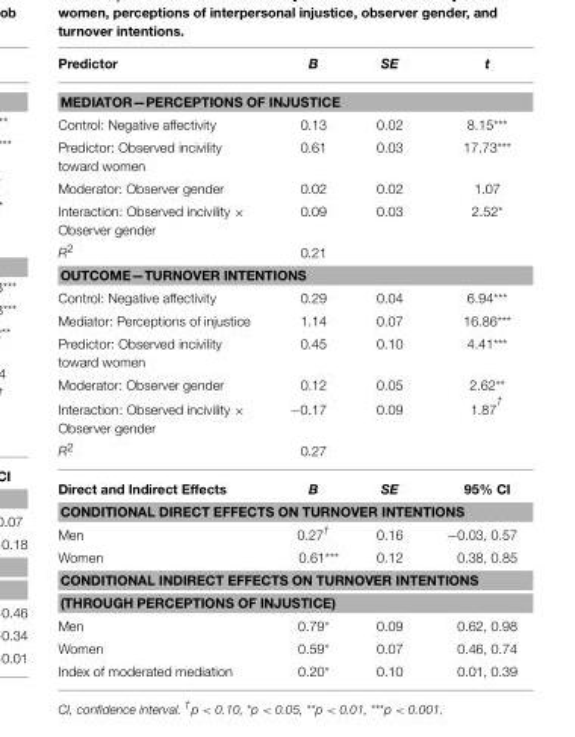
<table><thead><tr><td>Predictor</td><td>B</td><td>SE</td><td>t</td></tr></thead><tbody><tr><td colspan="4">MEDIATOR—PERCEPTIONS OF INJUSTICE</td></tr><tr><td>Control: Negative affectivity</td><td>0.13</td><td>0.02</td><td>8.15***</td></tr><tr><td>Predictor: Observed incivility toward women</td><td>0.61</td><td>0.03</td><td>17.73***</td></tr><tr><td>Moderator: Observer gender</td><td>0.02</td><td>0.02</td><td>1.07</td></tr><tr><td>Interaction: Observed incivility × Observer gender</td><td>0.09</td><td>0.03</td><td>2.52*</td></tr><tr><td>R<sup>2</sup></td><td>0.21</td><td></td><td></td></tr><tr><td colspan="4">OUTCOME—TURNOVER INTENTIONS</td></tr><tr><td>Control: Negative affectivity</td><td>0.29</td><td>0.04</td><td>6.94***</td></tr><tr><td>Mediator: Perceptions of injustice</td><td>1.14</td><td>0.07</td><td>16.86***</td></tr><tr><td>Predictor: Observed incivility toward women</td><td>0.45</td><td>0.10</td><td>4.41***</td></tr><tr><td>Moderator: Observer gender</td><td>0.12</td><td>0.05</td><td>2.62**</td></tr><tr><td>Interaction: Observed incivility × Observer gender</td><td>−0.17</td><td>0.09</td><td>1.87 <sup>†</sup></td></tr><tr><td>R<sup>2</sup></td><td>0.27</td><td></td><td></td></tr><tr><td>Direct and Indirect Effects</td><td>B</td><td>SE</td><td>95% CI</td></tr><tr><td colspan="4">CONDITIONAL DIRECT EFFECTS ON TURNOVER INTENTIONS</td></tr><tr><td>Men</td><td>0.27<sup>†</sup></td><td>0.16</td><td>−0.03, 0.57</td></tr><tr><td>Women</td><td>0.61***</td><td>0.12</td><td>0.38, 0.85</td></tr><tr><td colspan="4">CONDITIONAL INDIRECT EFFECTS ON TURNOVER INTENTIONS</td></tr><tr><td colspan="4">(THROUGH PERCEPTIONS OF INJUSTICE)</td></tr><tr><td>Men</td><td>0.79*</td><td>0.09</td><td>0.62, 0.98</td></tr><tr><td>Women</td><td>0.59*</td><td>0.07</td><td>0.46, 0.74</td></tr><tr><td>Index of moderated mediation</td><td>0.20*</td><td>0.10</td><td>0.01, 0.39</td></tr></tbody></table>